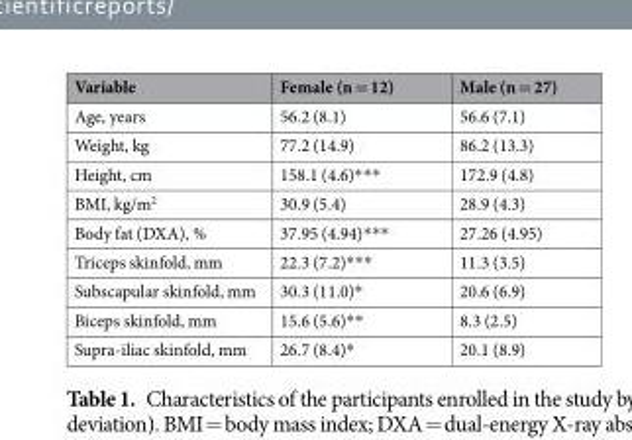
<table><thead><tr><td>Variable</td><td>Female (n = 12)</td><td>Male (n = 27)</td></tr></thead><tbody><tr><td>Age, years</td><td>56.2 (8.1)</td><td>56.6 (7.1)</td></tr><tr><td>Weight, kg</td><td>77.2 (14.9)</td><td>86.2 (13.3)</td></tr><tr><td>Height, cm</td><td>158.1 (4.6)***</td><td>172.9 (4.8)</td></tr><tr><td>BMI, kg/m<sup>2</sup></td><td>30.9 (5.4)</td><td>28.9 (4.3)</td></tr><tr><td>Body fat (DXA), %</td><td>37.95 (4.94)***</td><td>27.26 (4.95)</td></tr><tr><td>Triceps skinfold, mm</td><td>22.3 (7.2)***</td><td>11.3 (3.5)</td></tr><tr><td>Subscapular skinfold, mm</td><td>30.3 (11.0)*</td><td>20.6 (6.9)</td></tr><tr><td>Biceps skinfold, mm</td><td>15.6 (5.6)**</td><td>8.3 (2.5)</td></tr><tr><td>Supra-iliac skinfold, mm</td><td>26.7 (8.4)*</td><td>20.1 (8.9)</td></tr></tbody></table>